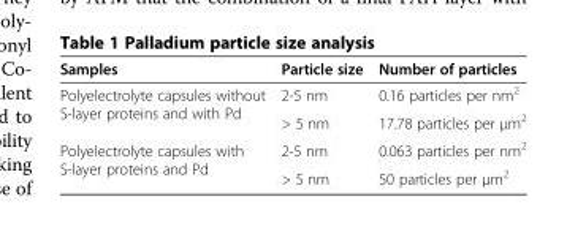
<table><thead><tr><td>Samples</td><td>Particle size</td><td>Number of particles</td></tr></thead><tbody><tr><td rowspan="2">Polyelectrolyte capsules without S-layer proteins and with Pd</td><td>2-5 nm</td><td>0.16 particles per nm<sup>2</sup></td></tr><tr><td>&gt; 5 nm</td><td>17.78 particles per μm<sup>2</sup></td></tr><tr><td rowspan="2">Polyelectrolyte capsules with S-layer proteins and Pd</td><td>2-5 nm</td><td>0.063 particles per nm<sup>2</sup></td></tr><tr><td>&gt; 5 nm</td><td>50 particles per μm<sup>2</sup></td></tr></tbody></table>